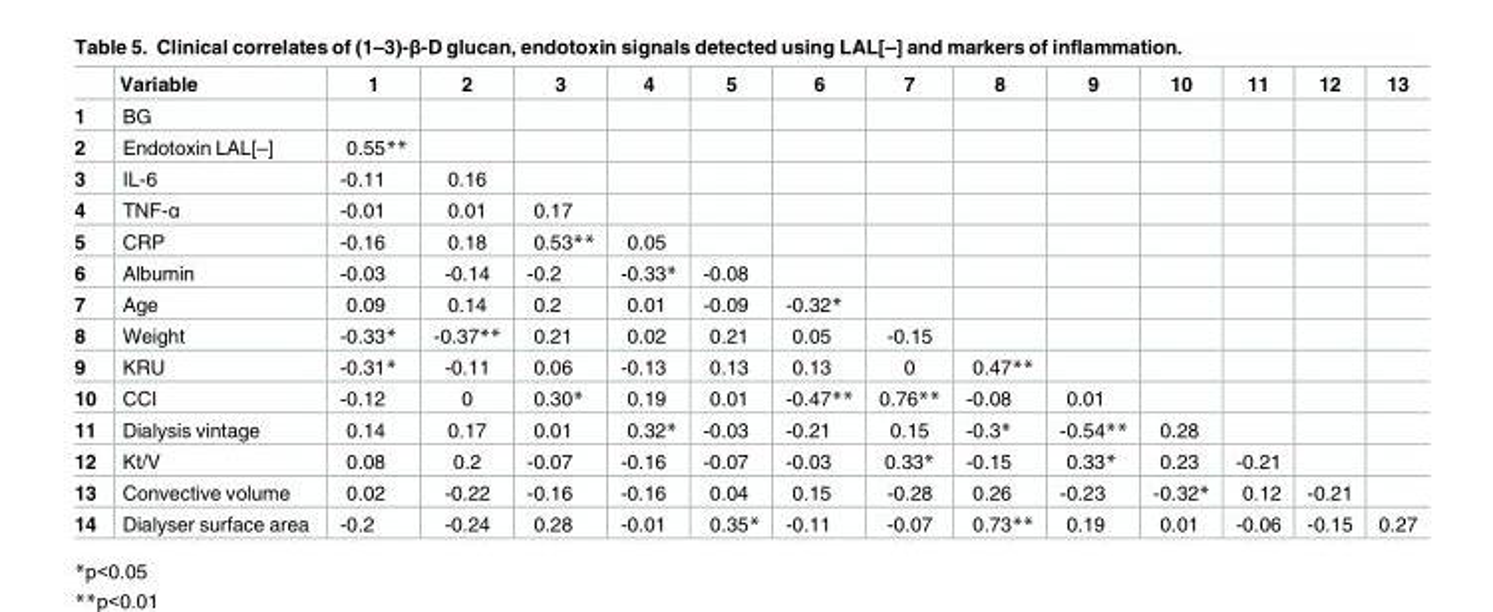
<table><thead><tr><td></td><td>Variable</td><td>1</td><td>2</td><td>3</td><td>4</td><td>5</td><td>6</td><td>7</td><td>8</td><td>9</td><td>10</td><td>11</td><td>12</td><td>13</td></tr></thead><tbody><tr><td>1</td><td>BG</td><td></td><td></td><td></td><td></td><td></td><td></td><td></td><td></td><td></td><td></td><td></td><td></td><td></td></tr><tr><td>2</td><td>Endotoxin LAL[–]</td><td>0.55**</td><td></td><td></td><td></td><td></td><td></td><td></td><td></td><td></td><td></td><td></td><td></td><td></td></tr><tr><td>3</td><td>IL-6</td><td>-0.11</td><td>0.16</td><td></td><td></td><td></td><td></td><td></td><td></td><td></td><td></td><td></td><td></td><td></td></tr><tr><td>4</td><td>TNF-α</td><td>-0.01</td><td>0.01</td><td>0.17</td><td></td><td></td><td></td><td></td><td></td><td></td><td></td><td></td><td></td><td></td></tr><tr><td>5</td><td>CRP</td><td>-0.16</td><td>0.18</td><td>0.53**</td><td>0.05</td><td></td><td></td><td></td><td></td><td></td><td></td><td></td><td></td><td></td></tr><tr><td>6</td><td>Albumin</td><td>-0.03</td><td>-0.14</td><td>-0.2</td><td>-0.33*</td><td>-0.08</td><td></td><td></td><td></td><td></td><td></td><td></td><td></td><td></td></tr><tr><td>7</td><td>Age</td><td>0.09</td><td>0.14</td><td>0.2</td><td>0.01</td><td>-0.09</td><td>-0.32*</td><td></td><td></td><td></td><td></td><td></td><td></td><td></td></tr><tr><td>8</td><td>Weight</td><td>-0.33*</td><td>-0.37**</td><td>0.21</td><td>0.02</td><td>0.21</td><td>0.05</td><td>-0.15</td><td></td><td></td><td></td><td></td><td></td><td></td></tr><tr><td>9</td><td>KRU</td><td>-0.31*</td><td>-0.11</td><td>0.06</td><td>-0.13</td><td>0.13</td><td>0.13</td><td>0</td><td>0.47**</td><td></td><td></td><td></td><td></td><td></td></tr><tr><td>10</td><td>CCI</td><td>-0.12</td><td>0</td><td>0.30*</td><td>0.19</td><td>0.01</td><td>-0.47**</td><td>0.76**</td><td>-0.08</td><td>0.01</td><td></td><td></td><td></td><td></td></tr><tr><td>11</td><td>Dialysis vintage</td><td>0.14</td><td>0.17</td><td>0.01</td><td>0.32*</td><td>-0.03</td><td>-0.21</td><td>0.15</td><td>-0.3*</td><td>-0.54**</td><td>0.28</td><td></td><td></td><td></td></tr><tr><td>12</td><td>Kt/V</td><td>0.08</td><td>0.2</td><td>-0.07</td><td>-0.16</td><td>-0.07</td><td>-0.03</td><td>0.33*</td><td>-0.15</td><td>0.33*</td><td>0.23</td><td>-0.21</td><td></td><td></td></tr><tr><td>13</td><td>Convective volume</td><td>0.02</td><td>-0.22</td><td>-0.16</td><td>-0.16</td><td>0.04</td><td>0.15</td><td>-0.28</td><td>0.26</td><td>-0.23</td><td>-0.32*</td><td>0.12</td><td>-0.21</td><td></td></tr><tr><td>14</td><td>Dialyser surface area</td><td>-0.2</td><td>-0.24</td><td>0.28</td><td>-0.01</td><td>0.35*</td><td>-0.11</td><td>-0.07</td><td>0.73**</td><td>0.19</td><td>0.01</td><td>-0.06</td><td>-0.15</td><td>0.27</td></tr></tbody></table>